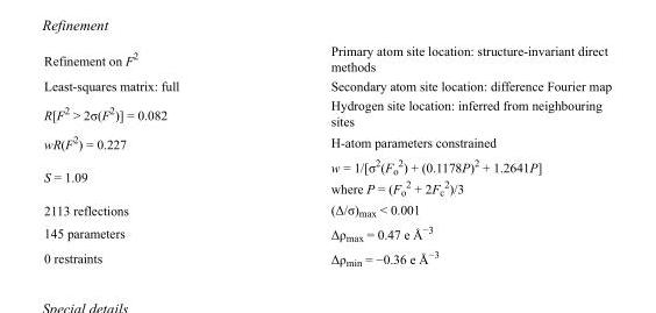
<table><tbody><tr><td>Refinement on F<sup>2</sup></td><td>Primary atom site location: structure-invariant direct methods</td></tr><tr><td>Least-squares matrix: full</td><td>Secondary atom site location: difference Fourier map</td></tr><tr><td>R[F<sup>2</sup> &gt; 2σ(F<sup>2</sup>)] = 0.082</td><td>Hydrogen site location: inferred from neighbouring sites</td></tr><tr><td>wR(F<sup>2</sup>) = 0.227</td><td>H-atom parameters constrained</td></tr><tr><td>S = 1.09</td><td>w = 1/[σ<sup>2</sup>(F<sub>o</sub> <sup>2</sup>) + (0.1178P)<sup>2</sup> + 1.2641P] where P = (F<sub>o</sub> <sup>2</sup> + 2F<sub>c</sub> <sup>2</sup>)/3</td></tr><tr><td>2113 reflections</td><td>(Δ/σ)<sub>max</sub> &lt; 0.001</td></tr><tr><td>145 parameters</td><td>Δρ<sub>max</sub> = 0.47 e Å<sup>−3</sup></td></tr><tr><td>0 restraints</td><td>Δρ<sub>min</sub> = −0.36 e Å<sup>−3</sup></td></tr></tbody></table>